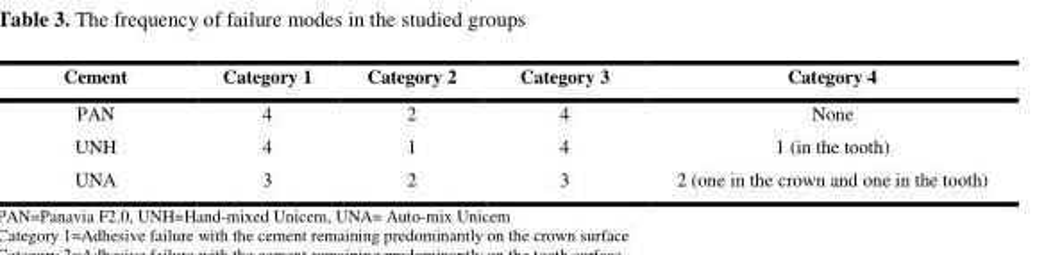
<table><thead><tr><td>Cement</td><td>Category 1</td><td>Category 2</td><td>Category 3</td><td>Category 4</td></tr></thead><tbody><tr><td>PAN</td><td>4</td><td>2</td><td>4</td><td>None</td></tr><tr><td>UNH</td><td>4</td><td>1</td><td>4</td><td>1 (in the tooth)</td></tr><tr><td>UNA</td><td>3</td><td>2</td><td>3</td><td>2 (one in the crown and one in the tooth)</td></tr></tbody></table>